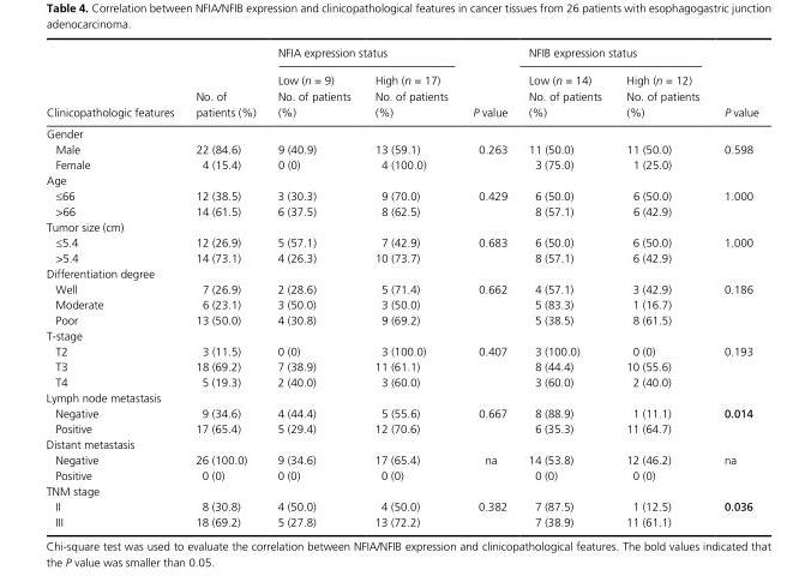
<table><thead><tr><td rowspan="2">Clinicopathologic features</td><td rowspan="2">No. of patients (%)</td><td colspan="2">NFIA expression status</td><td rowspan="2">P value</td><td colspan="2">NFIB expression status</td><td rowspan="2">P value</td></tr><tr><td>Low (n = 9) No. of patients (%)</td><td>High (n = 17) No. of patients (%)</td><td>Low (n = 14) No. of patients (%)</td><td>High (n = 12) No. of patients (%)</td></tr></thead><tbody><tr><td colspan="8">Gender</td></tr><tr><td>Male</td><td>22 (84.6)</td><td>9 (40.9)</td><td>13 (59.1)</td><td rowspan="2">0.263</td><td>11 (50.0)</td><td>11 (50.0)</td><td rowspan="2">0.598</td></tr><tr><td>Female</td><td>4 (15.4)</td><td>0 (0)</td><td>4 (100.0)</td><td>3 (75.0)</td><td>1 (25.0)</td></tr><tr><td colspan="8">Age</td></tr><tr><td>≤66</td><td>12 (38.5)</td><td>3 (30.3)</td><td>9 (70.0)</td><td rowspan="2">0.429</td><td>6 (50.0)</td><td>6 (50.0)</td><td rowspan="2">1.000</td></tr><tr><td>&gt;66</td><td>14 (61.5)</td><td>6 (37.5)</td><td>8 (62.5)</td><td>8 (57.1)</td><td>6 (42.9)</td></tr><tr><td colspan="8">Tumor size (cm)</td></tr><tr><td>≤5.4</td><td>12 (26.9)</td><td>5 (57.1)</td><td>7 (42.9)</td><td rowspan="2">0.683</td><td>6 (50.0)</td><td>6 (50.0)</td><td rowspan="2">1.000</td></tr><tr><td>&gt;5.4</td><td>14 (73.1)</td><td>4 (26.3)</td><td>10 (73.7)</td><td>8 (57.1)</td><td>6 (42.9)</td></tr><tr><td colspan="8">Differentiation degree</td></tr><tr><td>Well</td><td>7 (26.9)</td><td>2 (28.6)</td><td>5 (71.4)</td><td rowspan="3">0.662</td><td>4 (57.1)</td><td>3 (42.9)</td><td rowspan="3">0.186</td></tr><tr><td>Moderate</td><td>6 (23.1)</td><td>3 (50.0)</td><td>3 (50.0)</td><td>5 (83.3)</td><td>1 (16.7)</td></tr><tr><td>Poor</td><td>13 (50.0)</td><td>4 (30.8)</td><td>9 (69.2)</td><td>5 (38.5)</td><td>8 (61.5)</td></tr><tr><td colspan="8">T- stage</td></tr><tr><td>T2</td><td>3 (11.5)</td><td>0 (0)</td><td>3 (100.0)</td><td rowspan="3">0.407</td><td>3 (100.0)</td><td>0 (0)</td><td rowspan="3">0.193</td></tr><tr><td>T3</td><td>18 (69.2)</td><td>7 (38.9)</td><td>11 (61.1)</td><td>8 (44.4)</td><td>10 (55.6)</td></tr><tr><td>T4</td><td>5 (19.3)</td><td>2 (40.0)</td><td>3 (60.0)</td><td>3 (60.0)</td><td>2 (40.0)</td></tr><tr><td colspan="8">Lymph node metastasis</td></tr><tr><td>Negative</td><td>9 (34.6)</td><td>4 (44.4)</td><td>5 (55.6)</td><td rowspan="2">0.667</td><td>8 (88.9)</td><td>1 (11.1)</td><td rowspan="2">0.014</td></tr><tr><td>Positive</td><td>17 (65.4)</td><td>5 (29.4)</td><td>12 (70.6)</td><td>6 (35.3)</td><td>11 (64.7)</td></tr><tr><td colspan="8">Distant metastasis</td></tr><tr><td>Negative</td><td>26 (100.0)</td><td>9 (34.6)</td><td>17 (65.4)</td><td>na</td><td>14 (53.8)</td><td>12 (46.2)</td><td>na</td></tr><tr><td>Positive</td><td>0 (0)</td><td>0 (0)</td><td>0 (0)</td><td></td><td>0 (0)</td><td>0 (0)</td><td></td></tr><tr><td colspan="8">TNM stage</td></tr><tr><td>II</td><td>8 (30.8)</td><td>4 (50.0)</td><td>4 (50.0)</td><td rowspan="2">0.382</td><td>7 (87.5)</td><td>1 (12.5)</td><td rowspan="2">0.036</td></tr><tr><td>III</td><td>18 (69.2)</td><td>5 (27.8)</td><td>13 (72.2)</td><td>7 (38.9)</td><td>11 (61.1)</td></tr></tbody></table>